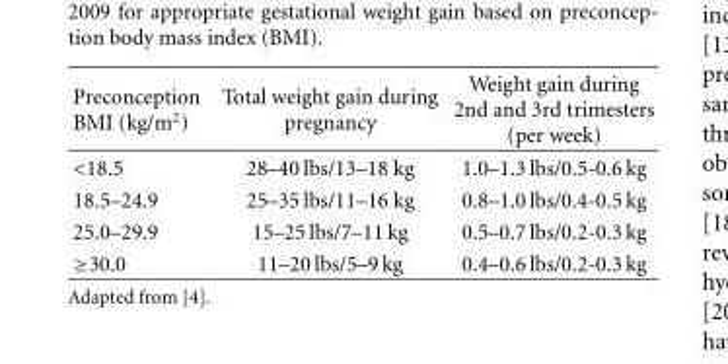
<table><thead><tr><td>Preconception BMI (kg/m<sup>2</sup>)</td><td>Total weight gain during pregnancy</td><td>Weight gain during 2nd and 3rd trimesters (per week)</td></tr></thead><tbody><tr><td>&lt;18.5</td><td>28–40 lbs/13–18 kg</td><td>1.0–1.3 lbs/0.5-0.6 kg</td></tr><tr><td>18.5–24.9</td><td>25–35 lbs/11–16 kg</td><td>0.8–1.0 lbs/0.4-0.5 kg</td></tr><tr><td>25.0–29.9</td><td>15–25 lbs/7–11 kg</td><td>0.5–0.7 lbs/0.2-0.3 kg</td></tr><tr><td>≥30.0</td><td>11–20 lbs/5–9 kg</td><td>0.4–0.6 lbs/0.2-0.3 kg</td></tr></tbody></table>